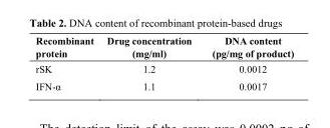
<table><thead><tr><td>Recombinant protein</td><td>Drug concentration (mg/ml)</td><td>DNA content (pg/mg of product)</td></tr></thead><tbody><tr><td>rSK</td><td>1.2</td><td>0.0012</td></tr><tr><td>IFN-α</td><td>1.1</td><td>0.0017</td></tr></tbody></table>